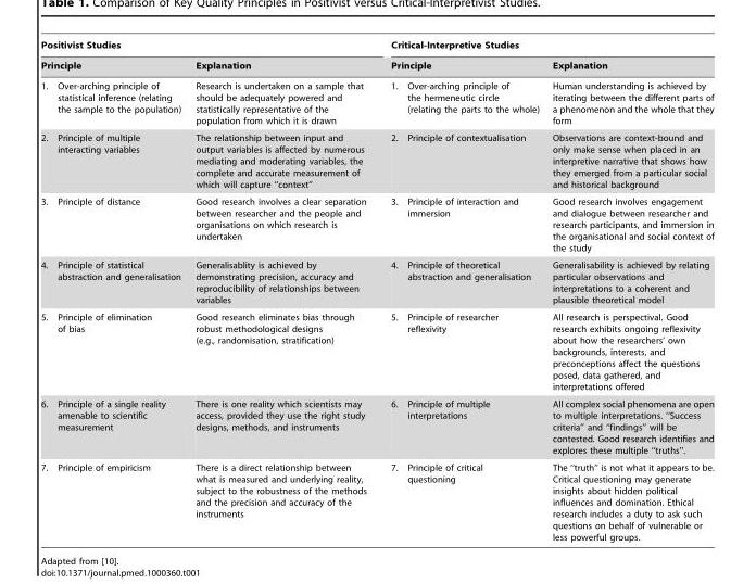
<table><thead><tr><td colspan="2">Positivist Studies</td><td colspan="2">Critical-Interpretive Studies</td></tr><tr><td>Principle</td><td>Explanation</td><td>Principle</td><td>Explanation</td></tr></thead><tbody><tr><td>1. Over-arching principle of statistical inference (relating the sample to the population)</td><td>Research is undertaken on a sample that should be adequately powered and statistically representative of the population from which it is drawn</td><td>1. Over-arching principle of the hermeneutic circle (relating the parts to the whole)</td><td>Human understanding is achieved by iterating between the different parts of a phenomenon and the whole that they form</td></tr><tr><td>2. Principle of multiple interacting variables</td><td>The relationship between input and output variables is affected by numerous mediating and moderating variables, the complete and accurate measurement of which will capture ‘‘context’’</td><td>2. Principle of contextualisation</td><td>Observations are context-bound and only make sense when placed in an interpretive narrative that shows how they emerged from a particular social and historical background</td></tr><tr><td>3. Principle of distance</td><td>Good research involves a clear separation between researcher and the people and organisations on which research is undertaken</td><td>3. Principle of interaction and immersion</td><td>Good research involves engagement and dialogue between researcher and research participants, and immersion in the organisational and social context of the study</td></tr><tr><td>4. Principle of statistical abstraction and generalisation</td><td>Generalisablity is achieved by demonstrating precision, accuracy and reproducibility of relationships between variables</td><td>4. Principle of theoretical abstraction and generalisation</td><td>Generalisability is achieved by relating particular observations and interpretations to a coherent and plausible theoretical model</td></tr><tr><td>5. Principle of elimination of bias</td><td>Good research eliminates bias through robust methodological designs (e.g., randomisation, stratification)</td><td>5. Principle of researcher reflexivity</td><td>All research is perspectival. Good research exhibits ongoing reflexivity about how the researchers’ own backgrounds, interests, and preconceptions affect the questions posed, data gathered, and interpretations offered</td></tr><tr><td>6. Principle of a single reality amenable to scientific measurement</td><td>There is one reality which scientists may access, provided they use the right study designs, methods, and instruments</td><td>6. Principle of multiple interpretations</td><td>All complex social phenomena are open to multiple interpretations. ‘‘Success criteria’’ and ‘‘findings’’ will be contested. Good research identifies and explores these multiple ‘‘truths’’.</td></tr><tr><td>7. Principle of empiricism</td><td>There is a direct relationship between what is measured and underlying reality, subject to the robustness of the methods and the precision and accuracy of the instruments</td><td>7. Principle of critical questioning</td><td>The ‘‘truth’’ is not what it appears to be. Critical questioning may generate insights about hidden political influences and domination. Ethical research includes a duty to ask such questions on behalf of vulnerable or less powerful groups.</td></tr></tbody></table>